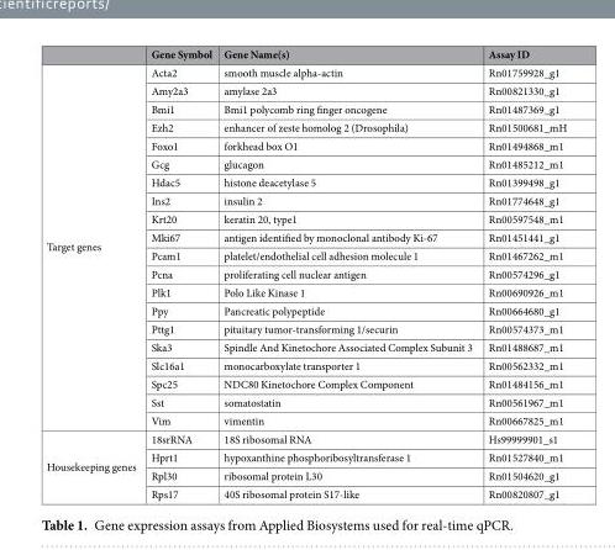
<table><thead><tr><td></td><td>Gene Symbol</td><td>Gene Name(s)</td><td>Assay ID</td></tr></thead><tbody><tr><td rowspan="20">Target genes</td><td>Acta2</td><td>smooth muscle alpha-actin</td><td>Rn01759928_g1</td></tr><tr><td>Amy2a3</td><td>amylase 2a3</td><td>Rn00821330_g1</td></tr><tr><td>Bmi1</td><td>Bmi1 polycomb ring finger oncogene</td><td>Rn01487369_g1</td></tr><tr><td>Ezh2</td><td>enhancer of zeste homolog 2 (Drosophila)</td><td>Rn01500681_mH</td></tr><tr><td>Foxo1</td><td>forkhead box O1</td><td>Rn01494868_m1</td></tr><tr><td>Gcg</td><td>glucagon</td><td>Rn01485212_m1</td></tr><tr><td>Hdac5</td><td>histone deacetylase 5</td><td>Rn01399498_g1</td></tr><tr><td>Ins2</td><td>insulin 2</td><td>Rn01774648_g1</td></tr><tr><td>Krt20</td><td>keratin 20, type1</td><td>Rn00597548_m1</td></tr><tr><td>Mki67</td><td>antigen identified by monoclonal antibody Ki-67</td><td>Rn01451441_g1</td></tr><tr><td>Pcam1</td><td>platelet/endothelial cell adhesion molecule 1</td><td>Rn01467262_m1</td></tr><tr><td>Pcna</td><td>proliferating cell nuclear antigen</td><td>Rn00574296_g1</td></tr><tr><td>Plk1</td><td>Polo Like Kinase 1</td><td>Rn00690926_m1</td></tr><tr><td>Ppy</td><td>Pancreatic polypeptide</td><td>Rn00664680_g1</td></tr><tr><td>Pttg1</td><td>pituitary tumor-transforming 1/securin</td><td>Rn00574373_m1</td></tr><tr><td>Ska3</td><td>Spindle And Kinetochore Associated Complex Subunit 3</td><td>Rn01488687_m1</td></tr><tr><td>Slc16a1</td><td>monocarboxylate transporter 1</td><td>Rn00562332_m1</td></tr><tr><td>Spc25</td><td>NDC80 Kinetochore Complex Component</td><td>Rn01484156_m1</td></tr><tr><td>Sst</td><td>somatostatin</td><td>Rn00561967_m1</td></tr><tr><td>Vim</td><td>vimentin</td><td>Rn00667825_m1</td></tr><tr><td rowspan="4">Housekeeping genes</td><td>18srRNA</td><td>18S ribosomal RNA</td><td>Hs99999901_s1</td></tr><tr><td>Hprt1</td><td>hypoxanthine phosphoribosyltransferase 1</td><td>Rn01527840_m1</td></tr><tr><td>Rpl30</td><td>ribosomal protein L30</td><td>Rn01504620_g1</td></tr><tr><td>Rps17</td><td>40S ribosomal protein S17-like</td><td>Rn00820807_g1</td></tr></tbody></table>